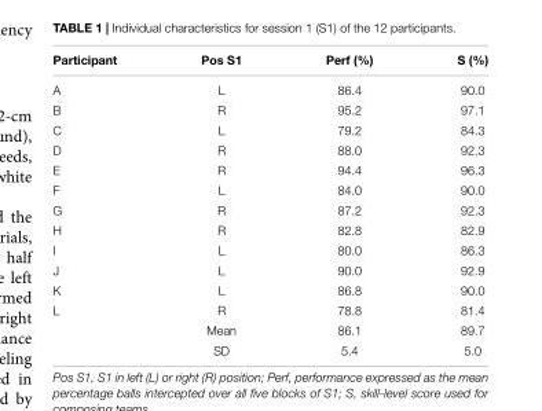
<table><thead><tr><td>Participant</td><td>Pos S1</td><td>Perf (%)</td><td>S (%)</td></tr></thead><tbody><tr><td>A</td><td>L</td><td>86.4</td><td>90.0</td></tr><tr><td>B</td><td>R</td><td>95.2</td><td>97.1</td></tr><tr><td>C</td><td>L</td><td>79.2</td><td>84.3</td></tr><tr><td>D</td><td>R</td><td>88.0</td><td>92.3</td></tr><tr><td>E</td><td>R</td><td>94.4</td><td>96.3</td></tr><tr><td>F</td><td>L</td><td>84.0</td><td>90.0</td></tr><tr><td>G</td><td>R</td><td>87.2</td><td>92.3</td></tr><tr><td>H</td><td>R</td><td>82.8</td><td>82.9</td></tr><tr><td>I</td><td>L</td><td>80.0</td><td>86.3</td></tr><tr><td>J</td><td>L</td><td>90.0</td><td>92.9</td></tr><tr><td>K</td><td>L</td><td>86.8</td><td>90.0</td></tr><tr><td rowspan="3">L</td><td>R</td><td>78.8</td><td>81.4</td></tr><tr><td>Mean</td><td>86.1</td><td>89.7</td></tr><tr><td>SD</td><td>5.4</td><td>5.0</td></tr></tbody></table>